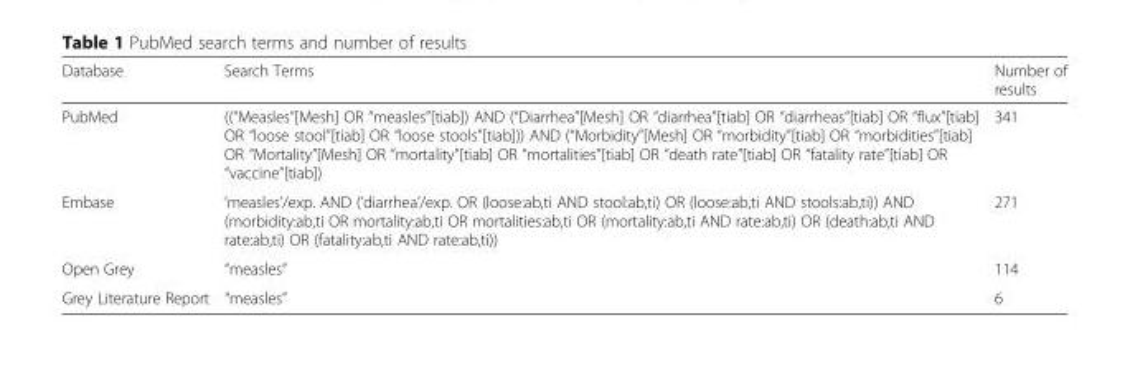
<table><thead><tr><td>Database</td><td>Search Terms</td><td>Number of results</td></tr></thead><tbody><tr><td>PubMed</td><td>((“Measles”[Mesh] OR “measles”[tiab]) AND (“Diarrhea”[Mesh] OR “diarrhea”[tiab] OR “diarrheas”[tiab] OR “flux”[tiab] OR “loose stool”[tiab] OR “loose stools”[tiab])) AND (“Morbidity”[Mesh] OR “morbidity”[tiab] OR “morbidities”[tiab] OR “Mortality”[Mesh] OR “mortality”[tiab] OR “mortalities”[tiab] OR “death rate”[tiab] OR “fatality rate”[tiab] OR “vaccine”[tiab])</td><td>341</td></tr><tr><td>Embase</td><td>‘measles’/exp. AND (‘diarrhea’/exp. OR (loose:ab,ti AND stool:ab,ti) OR (loose:ab,ti AND stools:ab,ti)) AND (morbidity:ab,ti OR mortality:ab,ti OR mortalities:ab,ti OR (mortality:ab,ti AND rate:ab,ti) OR (death:ab,ti AND rate:ab,ti) OR (fatality:ab,ti AND rate:ab,ti))</td><td>271</td></tr><tr><td>Open Grey</td><td>“measles”</td><td>114</td></tr><tr><td>Grey Literature Report</td><td>“measles”</td><td>6</td></tr></tbody></table>